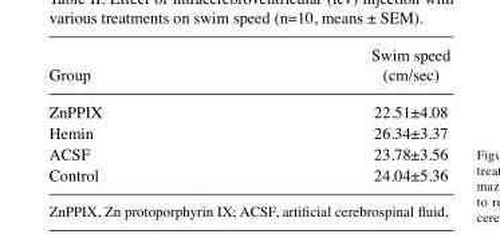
<table><thead><tr><td>Group</td><td>Swim speed (cm/sec)</td></tr></thead><tbody><tr><td>ZnPPⅨ</td><td>22.51±4.08</td></tr><tr><td>Hemin</td><td>26.34±3.37</td></tr><tr><td>ACSF</td><td>23.78±3.56</td></tr><tr><td>Control</td><td>24.04±5.36</td></tr></tbody></table>